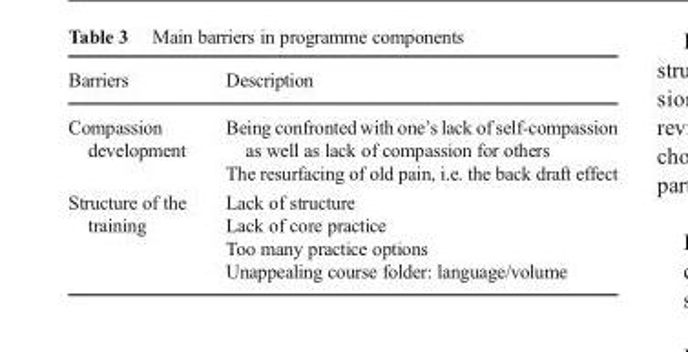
<table><thead><tr><td>Barriers</td><td>Description</td></tr></thead><tbody><tr><td>Compassion development</td><td>Being confronted with one’s lack of self-compassion as well as lack of compassion for others The resurfacing of old pain, i.e. the back draft effect</td></tr><tr><td>Structure of the training</td><td>Lack of structure Lack of core practice Too many practice options Unappealing course folder: language/volume</td></tr></tbody></table>